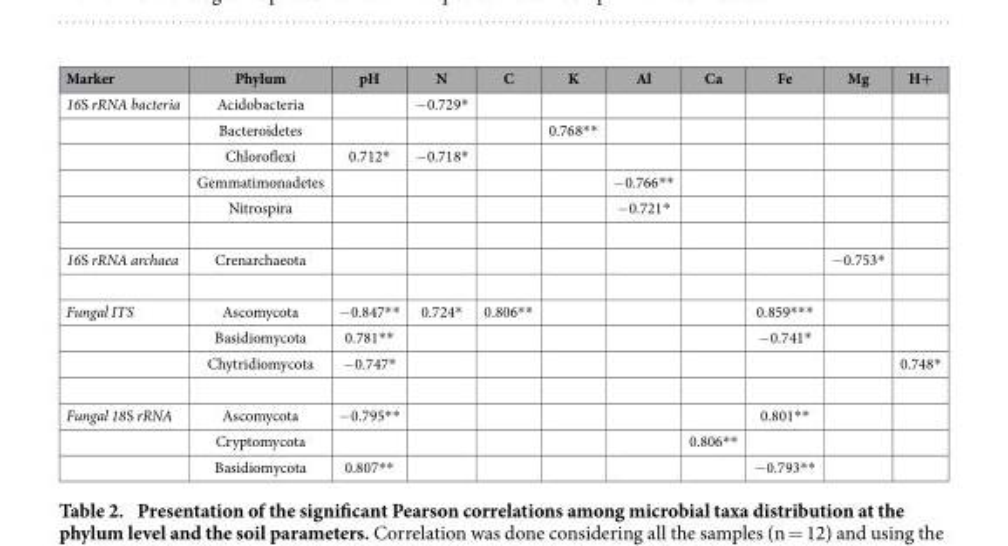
<table><thead><tr><td>Marker</td><td>Phylum</td><td>pH</td><td>N</td><td>C</td><td>K</td><td>Al</td><td>Ca</td><td>Fe</td><td>Mg</td><td>H+</td></tr></thead><tbody><tr><td rowspan="5">16S rRNA bacteria</td><td>Acidobacteria</td><td></td><td>−0.729*</td><td></td><td></td><td></td><td></td><td></td><td></td><td></td></tr><tr><td>Bacteroidetes</td><td></td><td></td><td></td><td>0.768**</td><td></td><td></td><td></td><td></td><td></td></tr><tr><td>Chloroflexi</td><td>0.712*</td><td>−0.718*</td><td></td><td></td><td></td><td></td><td></td><td></td><td></td></tr><tr><td>Gemmatimonadetes</td><td></td><td></td><td></td><td></td><td>−0.766**</td><td></td><td></td><td></td><td></td></tr><tr><td>Nitrospira</td><td></td><td></td><td></td><td></td><td>−0.721*</td><td></td><td></td><td></td><td></td></tr><tr><td>16S rRNA archaea</td><td>Crenarchaeota</td><td></td><td></td><td></td><td></td><td></td><td></td><td></td><td>−0.753*</td><td></td></tr><tr><td rowspan="3">Fungal ITS</td><td>Ascomycota</td><td>−0.847**</td><td>0.724*</td><td>0.806**</td><td></td><td></td><td></td><td>0.859***</td><td></td><td></td></tr><tr><td>Basidiomycota</td><td>0.781**</td><td></td><td></td><td></td><td></td><td></td><td>−0.741*</td><td></td><td></td></tr><tr><td>Chytridiomycota</td><td>−0.747*</td><td></td><td></td><td></td><td></td><td></td><td></td><td></td><td>0.748*</td></tr><tr><td rowspan="3">Fungal 18S rRNA</td><td>Ascomycota</td><td>−0.795**</td><td></td><td></td><td></td><td></td><td></td><td>0.801**</td><td></td><td></td></tr><tr><td>Cryptomycota</td><td></td><td></td><td></td><td></td><td></td><td>0.806**</td><td></td><td></td><td></td></tr><tr><td>Basidiomycota</td><td>0.807**</td><td></td><td></td><td></td><td></td><td></td><td>−0.793**</td><td></td><td></td></tr></tbody></table>